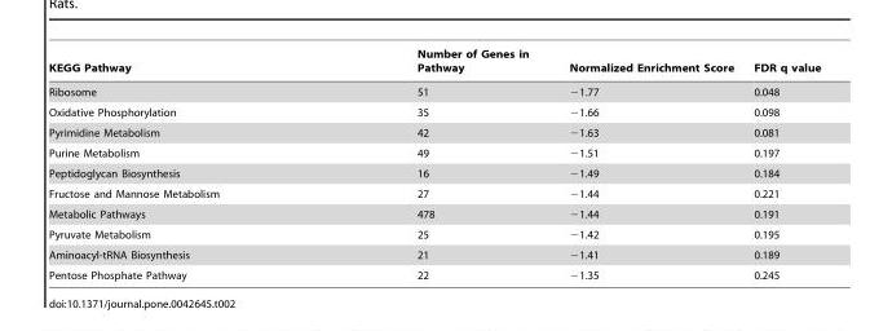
<table><thead><tr><td>KEGG Pathway</td><td>Number of Genes in Pathway</td><td>Normalized Enrichment Score</td><td>FDR q value</td></tr></thead><tbody><tr><td>Ribosome</td><td>51</td><td>−1.77</td><td>0.048</td></tr><tr><td>Oxidative Phosphorylation</td><td>35</td><td>−1.66</td><td>0.098</td></tr><tr><td>Pyrimidine Metabolism</td><td>42</td><td>−1.63</td><td>0.081</td></tr><tr><td>Purine Metabolism</td><td>49</td><td>−1.51</td><td>0.197</td></tr><tr><td>Peptidoglycan Biosynthesis</td><td>16</td><td>−1.49</td><td>0.184</td></tr><tr><td>Fructose and Mannose Metabolism</td><td>27</td><td>−1.44</td><td>0.221</td></tr><tr><td>Metabolic Pathways</td><td>478</td><td>−1.44</td><td>0.191</td></tr><tr><td>Pyruvate Metabolism</td><td>25</td><td>−1.42</td><td>0.195</td></tr><tr><td>Aminoacyl-tRNA Biosynthesis</td><td>21</td><td>−1.41</td><td>0.189</td></tr><tr><td>Pentose Phosphate Pathway</td><td>22</td><td>−1.35</td><td>0.245</td></tr></tbody></table>